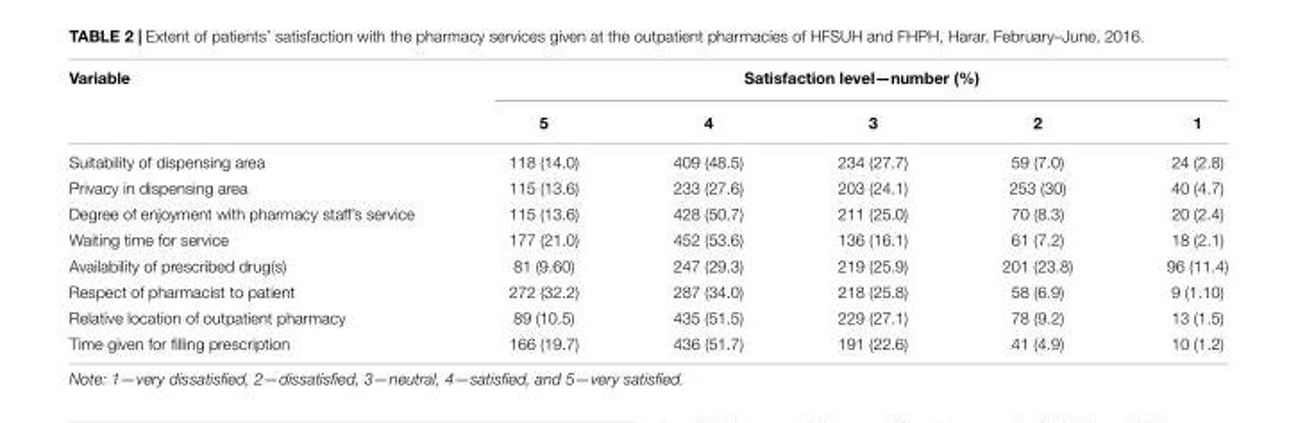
<table><thead><tr><td rowspan="2">Variable</td><td colspan="5">Satisfaction level—number (%)</td></tr><tr><td>5</td><td>4</td><td>3</td><td>2</td><td>1</td></tr></thead><tbody><tr><td>Suitability of dispensing area</td><td>118 (14.0)</td><td>409 (48.5)</td><td>234 (27.7)</td><td>59 (7.0)</td><td>24 (2.8)</td></tr><tr><td>Privacy in dispensing area</td><td>115 (13.6)</td><td>233 (27.6)</td><td>203 (24.1)</td><td>253 (30)</td><td>40 (4.7)</td></tr><tr><td>Degree of enjoyment with pharmacy staff’s service</td><td>115 (13.6)</td><td>428 (50.7)</td><td>211 (25.0)</td><td>70 (8.3)</td><td>20 (2.4)</td></tr><tr><td>Waiting time for service</td><td>177 (21.0)</td><td>452 (53.6)</td><td>136 (16.1)</td><td>61 (7.2)</td><td>18 (2.1)</td></tr><tr><td>Availability of prescribed drug(s)</td><td>81 (9.60)</td><td>247 (29.3)</td><td>219 (25.9)</td><td>201 (23.8)</td><td>96 (11.4)</td></tr><tr><td>Respect of pharmacist to patient</td><td>272 (32.2)</td><td>287 (34.0)</td><td>218 (25.8)</td><td>58 (6.9)</td><td>9 (1.10)</td></tr><tr><td>Relative location of outpatient pharmacy</td><td>89 (10.5)</td><td>435 (51.5)</td><td>229 (27.1)</td><td>78 (9.2)</td><td>13 (1.5)</td></tr><tr><td>Time given for filling prescription</td><td>166 (19.7)</td><td>436 (51.7)</td><td>191 (22.6)</td><td>41 (4.9)</td><td>10 (1.2)</td></tr></tbody></table>